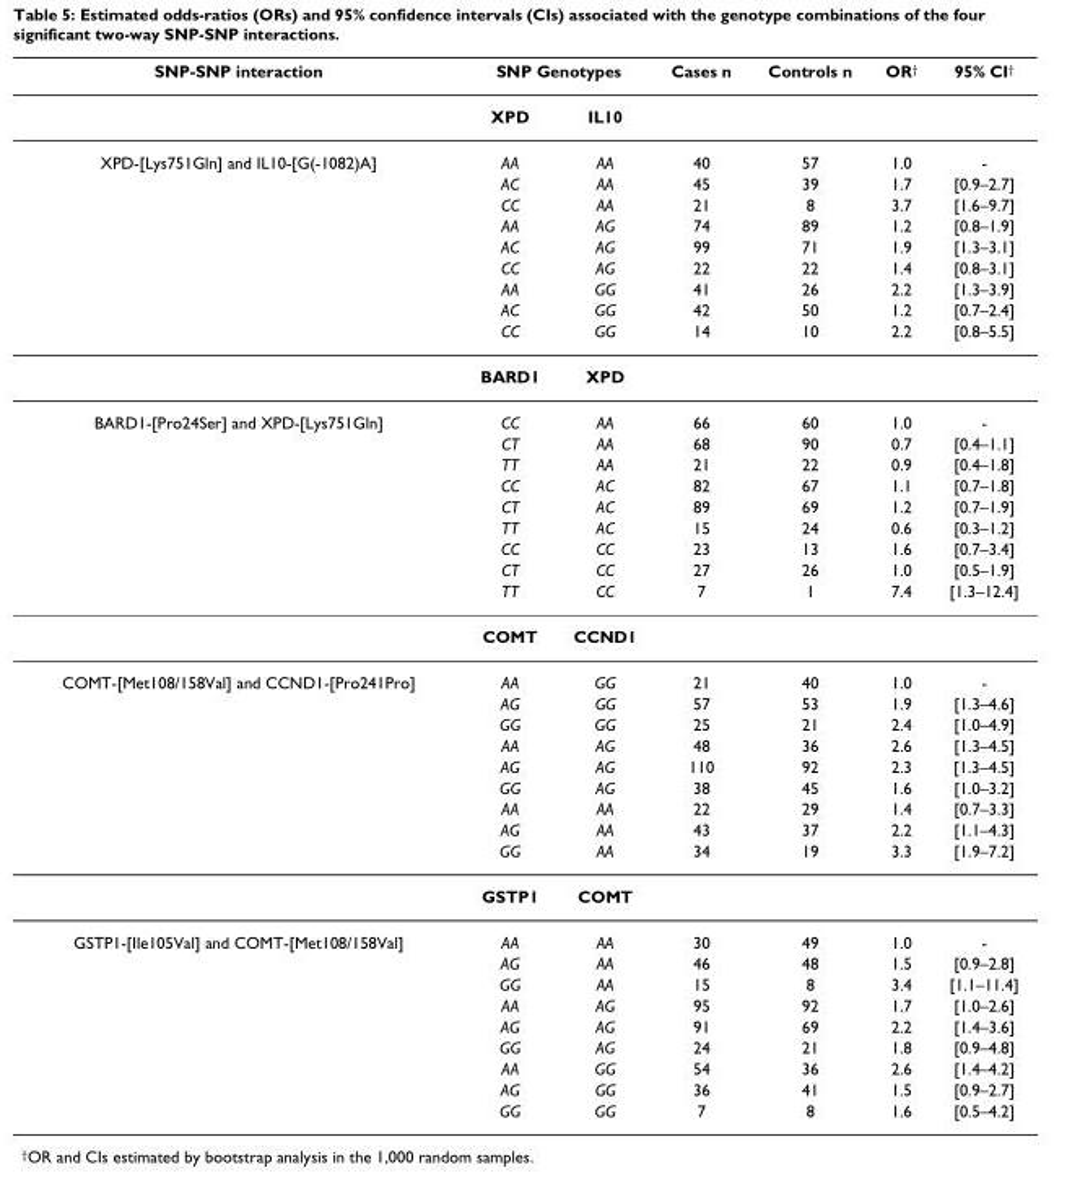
<table><thead><tr><td rowspan="2">SNP-SNP interaction</td><td colspan="2">SNP Genotypes</td><td rowspan="2">Cases n</td><td rowspan="2">Controls n</td><td rowspan="2">OR†</td><td rowspan="2">95% CI†</td></tr><tr><td>XPD</td><td>IL10</td></tr></thead><tbody><tr><td rowspan="10">XPD-[Lys751Gln] and IL10-[G(-1082)A]</td><td>AA</td><td>AA</td><td>40</td><td>57</td><td>1.0</td><td>-</td></tr><tr><td>AC</td><td>AA</td><td>45</td><td>39</td><td>1.7</td><td>[0.9–2.7]</td></tr><tr><td>CC</td><td>AA</td><td>21</td><td>8</td><td>3.7</td><td>[1.6–9.7]</td></tr><tr><td>AA</td><td>AG</td><td>74</td><td>89</td><td>1.2</td><td>[0.8–1.9]</td></tr><tr><td>AC</td><td>AG</td><td>99</td><td>71</td><td>1.9</td><td>[1.3–3.1]</td></tr><tr><td>CC</td><td>AG</td><td>22</td><td>22</td><td>1.4</td><td>[0.8–3.1]</td></tr><tr><td>AA</td><td>GG</td><td>41</td><td>26</td><td>2.2</td><td>[1.3–3.9]</td></tr><tr><td>AC</td><td>GG</td><td>42</td><td>50</td><td>1.2</td><td>[0.7–2.4]</td></tr><tr><td>CC</td><td>GG</td><td>14</td><td>10</td><td>2.2</td><td>[0.8–5.5]</td></tr><tr><td>BARD1</td><td>XPD</td><td></td><td></td><td></td><td></td></tr><tr><td rowspan="10">BARD1-[Pro24Ser] and XPD-[Lys751Gln]</td><td>CC</td><td>AA</td><td>66</td><td>60</td><td>1.0</td><td>-</td></tr><tr><td>CT</td><td>AA</td><td>68</td><td>90</td><td>0.7</td><td>[0.4–1.1]</td></tr><tr><td>TT</td><td>AA</td><td>21</td><td>22</td><td>0.9</td><td>[0.4–1.8]</td></tr><tr><td>CC</td><td>AC</td><td>82</td><td>67</td><td>1.1</td><td>[0.7–1.8]</td></tr><tr><td>CT</td><td>AC</td><td>89</td><td>69</td><td>1.2</td><td>[0.7–1.9]</td></tr><tr><td>TT</td><td>AC</td><td>15</td><td>24</td><td>0.6</td><td>[0.3–1.2]</td></tr><tr><td>CC</td><td>CC</td><td>23</td><td>13</td><td>1.6</td><td>[0.7–3.4]</td></tr><tr><td>CT</td><td>CC</td><td>27</td><td>26</td><td>1.0</td><td>[0.5–1.9]</td></tr><tr><td>TT</td><td>CC</td><td>7</td><td>1</td><td>7.4</td><td>[1.3–12.4]</td></tr><tr><td>COMT</td><td>CCND1</td><td></td><td></td><td></td><td></td></tr><tr><td rowspan="10">COMT-[Met108/158Val] and CCND1-[Pro241Pro]</td><td>AA</td><td>GG</td><td>21</td><td>40</td><td>1.0</td><td>-</td></tr><tr><td>AG</td><td>GG</td><td>57</td><td>53</td><td>1.9</td><td>[1.3–4.6]</td></tr><tr><td>GG</td><td>GG</td><td>25</td><td>21</td><td>2.4</td><td>[1.0–4.9]</td></tr><tr><td>AA</td><td>AG</td><td>48</td><td>36</td><td>2.6</td><td>[1.3–4.5]</td></tr><tr><td>AG</td><td>AG</td><td>110</td><td>92</td><td>2.3</td><td>[1.3–4.5]</td></tr><tr><td>GG</td><td>AG</td><td>38</td><td>45</td><td>1.6</td><td>[1.0–3.2]</td></tr><tr><td>AA</td><td>AA</td><td>22</td><td>29</td><td>1.4</td><td>[0.7–3.3]</td></tr><tr><td>AG</td><td>AA</td><td>43</td><td>37</td><td>2.2</td><td>[1.1–4.3]</td></tr><tr><td>GG</td><td>AA</td><td>34</td><td>19</td><td>3.3</td><td>[1.9–7.2]</td></tr><tr><td>GSTP1</td><td>COMT</td><td></td><td></td><td></td><td></td></tr><tr><td rowspan="9">GSTP1-[Ile105Val] and COMT-[Met108/158Val]</td><td>AA</td><td>AA</td><td>30</td><td>49</td><td>1.0</td><td>-</td></tr><tr><td>AG</td><td>AA</td><td>46</td><td>48</td><td>1.5</td><td>[0.9–2.8]</td></tr><tr><td>GG</td><td>AA</td><td>15</td><td>8</td><td>3.4</td><td>[1.1–11.4]</td></tr><tr><td>AA</td><td>AG</td><td>95</td><td>92</td><td>1.7</td><td>[1.0–2.6]</td></tr><tr><td>AG</td><td>AG</td><td>91</td><td>69</td><td>2.2</td><td>[1.4–3.6]</td></tr><tr><td>GG</td><td>AG</td><td>24</td><td>21</td><td>1.8</td><td>[0.9–4.8]</td></tr><tr><td>AA</td><td>GG</td><td>54</td><td>36</td><td>2.6</td><td>[1.4–4.2]</td></tr><tr><td>AG</td><td>GG</td><td>36</td><td>41</td><td>1.5</td><td>[0.9–2.7]</td></tr><tr><td>GG</td><td>GG</td><td>7</td><td>8</td><td>1.6</td><td>[0.5–4.2]</td></tr></tbody></table>